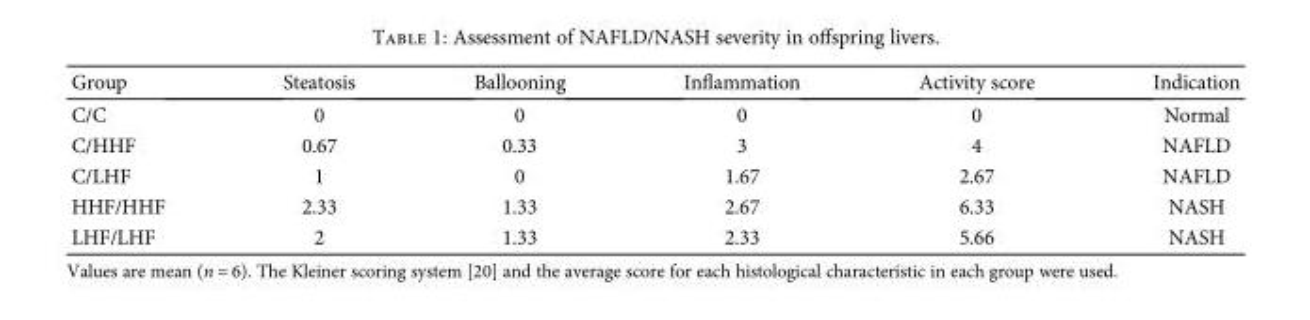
<table><thead><tr><td>Group</td><td>Steatosis</td><td>Ballooning</td><td>Inflammation</td><td>Activity score</td><td>Indication</td></tr></thead><tbody><tr><td>C/C</td><td>0</td><td>0</td><td>0</td><td>0</td><td>Normal</td></tr><tr><td>C/HHF</td><td>0.67</td><td>0.33</td><td>3</td><td>4</td><td>NAFLD</td></tr><tr><td>C/LHF</td><td>1</td><td>0</td><td>1.67</td><td>2.67</td><td>NAFLD</td></tr><tr><td>HHF/HHF</td><td>2.33</td><td>1.33</td><td>2.67</td><td>6.33</td><td>NASH</td></tr><tr><td>LHF/LHF</td><td>2</td><td>1.33</td><td>2.33</td><td>5.66</td><td>NASH</td></tr></tbody></table>